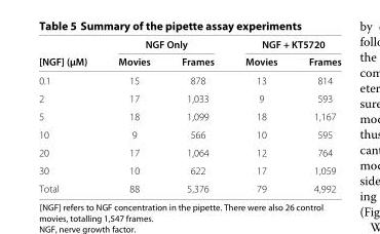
<table><thead><tr><td rowspan="2">[NGF] (μM)</td><td colspan="2">NGF Only</td><td colspan="2">NGF + KT5720</td></tr><tr><td>Movies</td><td>Frames</td><td>Movies</td><td>Frames</td></tr></thead><tbody><tr><td>0.1</td><td>15</td><td>878</td><td>13</td><td>814</td></tr><tr><td>2</td><td>17</td><td>1,033</td><td>9</td><td>593</td></tr><tr><td>5</td><td>18</td><td>1,099</td><td>18</td><td>1,167</td></tr><tr><td>10</td><td>9</td><td>566</td><td>10</td><td>595</td></tr><tr><td>20</td><td>17</td><td>1,064</td><td>12</td><td>764</td></tr><tr><td>30</td><td>10</td><td>622</td><td>17</td><td>1,059</td></tr><tr><td>Total</td><td>88</td><td>5,376</td><td>79</td><td>4,992</td></tr></tbody></table>